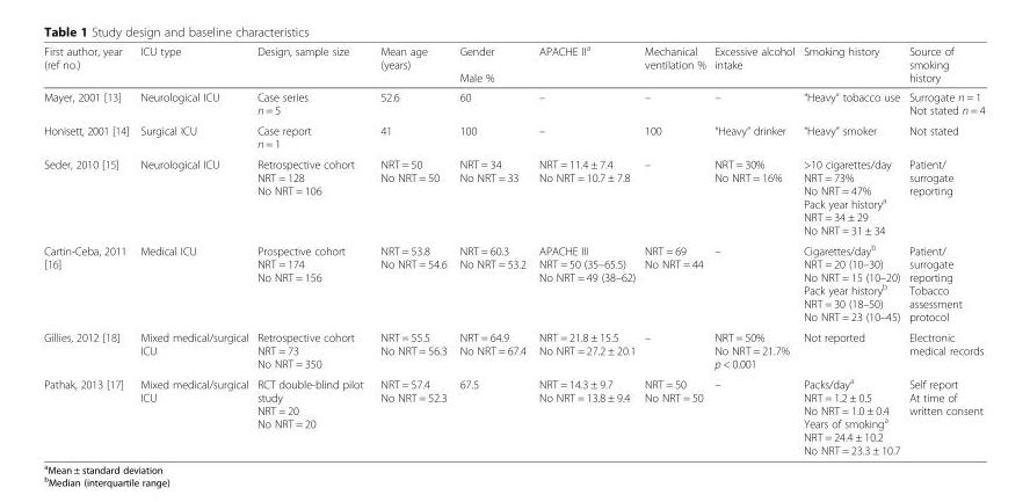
<table><thead><tr><td>First author, year (ref no.)</td><td>ICU type</td><td>Design, sample size</td><td>Mean age (years)</td><td>Gender Male %</td><td>APACHE II<sup>a</sup></td><td>Mechanical ventilation %</td><td>Excessive alcohol intake</td><td>Smoking history</td><td>Source of smoking history</td></tr></thead><tbody><tr><td>Mayer, 2001 [13]</td><td>Neurological ICU</td><td>Case series n = 5</td><td>52.6</td><td>60</td><td>–</td><td>–</td><td>–</td><td>“Heavy” tobacco use</td><td>Surrogate n = 1 Not stated n = 4</td></tr><tr><td>Honisett, 2001 [14]</td><td>Surgical ICU</td><td>Case report n = 1</td><td>41</td><td>100</td><td>–</td><td>100</td><td>“Heavy” drinker</td><td>“Heavy” smoker</td><td>Not stated</td></tr><tr><td>Seder, 2010 [15]</td><td>Neurological ICU</td><td>Retrospective cohort NRT = 128 No NRT = 106</td><td>NRT = 50 No NRT = 50</td><td>NRT = 34 No NRT = 33</td><td>NRT = 11.4 ± 7.4 No NRT = 10.7 ± 7.8</td><td>–</td><td>NRT = 30% No NRT = 16%</td><td>&gt;10 cigarettes/day NRT = 73% No NRT = 47% Pack year history<sup>a</sup> NRT = 34 ± 29 No NRT = 31 ± 34</td><td>Patient/ surrogate reporting</td></tr><tr><td>Cartin-Ceba, 2011 [16]</td><td>Medical ICU</td><td>Prospective cohort NRT = 174 No NRT = 156</td><td>NRT = 53.8 No NRT = 54.6</td><td>NRT = 60.3 No NRT = 53.2</td><td>APACHE III NRT = 50 (35–65.5) No NRT = 49 (38–62)</td><td>NRT = 69 No NRT = 44</td><td>–</td><td>Cigarettes/day<sup>b</sup> NRT = 20 (10–30) No NRT = 15 (10–20) Pack year history<sup>b</sup> NRT = 30 (18–50) No NRT = 23 (10–45)</td><td>Patient/ surrogate reporting Tobacco assessment protocol</td></tr><tr><td>Gillies, 2012 [18]</td><td>Mixed medical/surgical ICU</td><td>Retrospective cohort NRT = 73 No NRT = 350</td><td>NRT = 55.5 No NRT = 56.3</td><td>NRT = 64.9 No NRT = 67.4</td><td>NRT = 21.8 ± 15.5 No NRT = 27.2 ± 20.1</td><td>–</td><td>NRT = 50% No NRT = 21.7% p &lt; 0.001</td><td>Not reported</td><td>Electronic medical records</td></tr><tr><td>Pathak, 2013 [17]</td><td>Mixed medical/surgical ICU</td><td>RCT double-blind pilot study NRT = 20 No NRT = 20</td><td>NRT = 57.4 No NRT = 52.3</td><td>67.5</td><td>NRT = 14.3 ± 9.7 No NRT = 13.8 ± 9.4</td><td>NRT = 50 No NRT = 50</td><td>–</td><td>Packs/day<sup>a</sup> NRT = 1.2 ± 0.5 No NRT = 1.0 ± 0.4 Years of smoking<sup>a</sup> NRT = 24.4 ± 10.2 No NRT = 23.3 ± 10.7</td><td>Self report At time of written consent</td></tr></tbody></table>